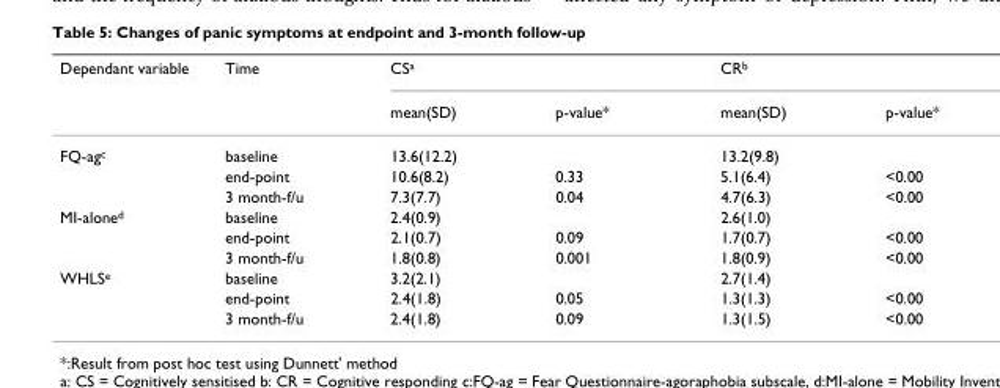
<table><thead><tr><td rowspan="2">Dependant variable</td><td rowspan="2">Time</td><td colspan="2">CS<sup>a</sup></td><td colspan="2">CR<sup>b</sup></td></tr><tr><td>mean(SD)</td><td>p-value*</td><td>mean(SD)</td><td>p-value*</td></tr></thead><tbody><tr><td rowspan="3">FQ-ag<sup>c</sup></td><td>baseline</td><td>13.6(12.2)</td><td></td><td>13.2(9.8)</td><td></td></tr><tr><td>end-point</td><td>10.6(8.2)</td><td>0.33</td><td>5.1(6.4)</td><td>&lt;0.00</td></tr><tr><td>3 month-f/u</td><td>7.3(7.7)</td><td>0.04</td><td>4.7(6.3)</td><td>&lt;0.00</td></tr><tr><td rowspan="3">MI-alone<sup>d</sup></td><td>baseline</td><td>2.4(0.9)</td><td></td><td>2.6(1.0)</td><td></td></tr><tr><td>end-point</td><td>2.1(0.7)</td><td>0.09</td><td>1.7(0.7)</td><td>&lt;0.00</td></tr><tr><td>3 month-f/u</td><td>1.8(0.8)</td><td>0.001</td><td>1.8(0.9)</td><td>&lt;0.00</td></tr><tr><td rowspan="3">WHLS<sup>e</sup></td><td>baseline</td><td>3.2(2.1)</td><td></td><td>2.7(1.4)</td><td></td></tr><tr><td>end-point</td><td>2.4(1.8)</td><td>0.05</td><td>1.3(1.3)</td><td>&lt;0.00</td></tr><tr><td>3 month-f/u</td><td>2.4(1.8)</td><td>0.09</td><td>1.3(1.5)</td><td>&lt;0.00</td></tr></tbody></table>